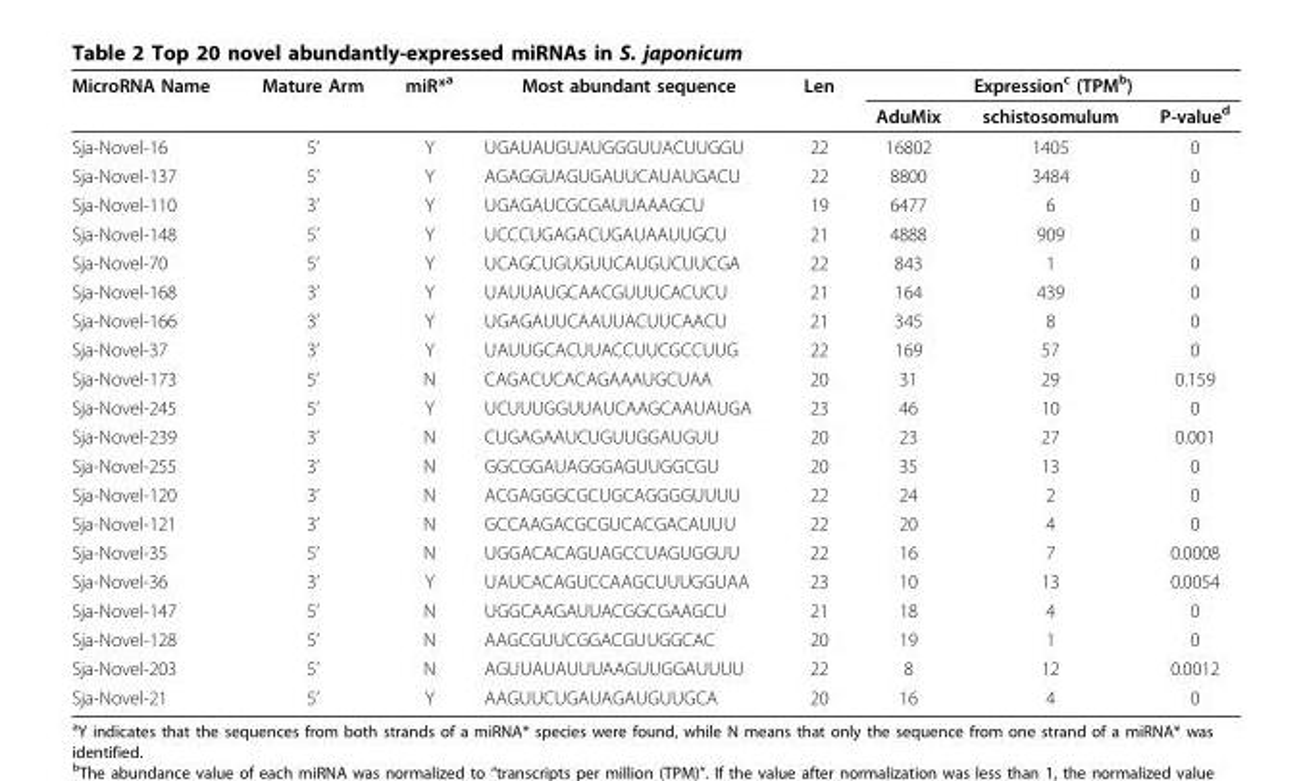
<table><thead><tr><td rowspan="2">MicroRNA Name</td><td rowspan="2">Mature Arm</td><td rowspan="2">miR*<sup>a</sup></td><td rowspan="2">Most abundant sequence</td><td rowspan="2">Len</td><td colspan="3">Expression<sup>c</sup> (TPM<sup>b</sup>)</td></tr><tr><td>AduMix</td><td>schistosomulum</td><td>P-value<sup>d</sup></td></tr></thead><tbody><tr><td>Sja-Novel-16</td><td>5’</td><td>Y</td><td>UGAUAUGUAUGGGUUACUUGGU</td><td>22</td><td>16802</td><td>1405</td><td>0</td></tr><tr><td>Sja-Novel-137</td><td>5’</td><td>Y</td><td>AGAGGUAGUGAUUCAUAUGACU</td><td>22</td><td>8800</td><td>3484</td><td>0</td></tr><tr><td>Sja-Novel-110</td><td>3’</td><td>Y</td><td>UGAGAUCGCGAUUAAAGCU</td><td>19</td><td>6477</td><td>6</td><td>0</td></tr><tr><td>Sja-Novel-148</td><td>5’</td><td>Y</td><td>UCCCUGAGACUGAUAAUUGCU</td><td>21</td><td>4888</td><td>909</td><td>0</td></tr><tr><td>Sja-Novel-70</td><td>5’</td><td>Y</td><td>UCAGCUGUGUUCAUGUCUUCGA</td><td>22</td><td>843</td><td>1</td><td>0</td></tr><tr><td>Sja-Novel-168</td><td>3’</td><td>Y</td><td>UAUUAUGCAACGUUUCACUCU</td><td>21</td><td>164</td><td>439</td><td>0</td></tr><tr><td>Sja-Novel-166</td><td>3’</td><td>Y</td><td>UGAGAUUCAAUUACUUCAACU</td><td>21</td><td>345</td><td>8</td><td>0</td></tr><tr><td>Sja-Novel-37</td><td>3’</td><td>Y</td><td>UAUUGCACUUACCUUCGCCUUG</td><td>22</td><td>169</td><td>57</td><td>0</td></tr><tr><td>Sja-Novel-173</td><td>5’</td><td>N</td><td>CAGACUCACAGAAAUGCUAA</td><td>20</td><td>31</td><td>29</td><td>0.159</td></tr><tr><td>Sja-Novel-245</td><td>5’</td><td>Y</td><td>UCUUUGGUUAUCAAGCAAUAUGA</td><td>23</td><td>46</td><td>10</td><td>0</td></tr><tr><td>Sja-Novel-239</td><td>3’</td><td>N</td><td>CUGAGAAUCUGUUGGAUGUU</td><td>20</td><td>23</td><td>27</td><td>0.001</td></tr><tr><td>Sja-Novel-255</td><td>3’</td><td>N</td><td>GGCGGAUAGGGAGUUGGCGU</td><td>20</td><td>35</td><td>13</td><td>0</td></tr><tr><td>Sja-Novel-120</td><td>3’</td><td>N</td><td>ACGAGGGCGCUGCAGGGGUUUU</td><td>22</td><td>24</td><td>2</td><td>0</td></tr><tr><td>Sja-Novel-121</td><td>3’</td><td>N</td><td>GCCAAGACGCGUCACGACAUUU</td><td>22</td><td>20</td><td>4</td><td>0</td></tr><tr><td>Sja-Novel-35</td><td>5’</td><td>N</td><td>UGGACACAGUAGCCUAGUGGUU</td><td>22</td><td>16</td><td>7</td><td>0.0008</td></tr><tr><td>Sja-Novel-36</td><td>3’</td><td>Y</td><td>UAUCACAGUCCAAGCUUUGGUAA</td><td>23</td><td>10</td><td>13</td><td>0.0054</td></tr><tr><td>Sja-Novel-147</td><td>5’</td><td>N</td><td>UGGCAAGAUUACGGCGAAGCU</td><td>21</td><td>18</td><td>4</td><td>0</td></tr><tr><td>Sja-Novel-128</td><td>5’</td><td>N</td><td>AAGCGUUCGGACGUUGGCAC</td><td>20</td><td>19</td><td>1</td><td>0</td></tr><tr><td>Sja-Novel-203</td><td>5’</td><td>N</td><td>AGUUAUAUUUAAGUUGGAUUUU</td><td>22</td><td>8</td><td>12</td><td>0.0012</td></tr><tr><td>Sja-Novel-21</td><td>5’</td><td>Y</td><td>AAGUUCUGAUAGAUGUUGCA</td><td>20</td><td>16</td><td>4</td><td>0</td></tr></tbody></table>